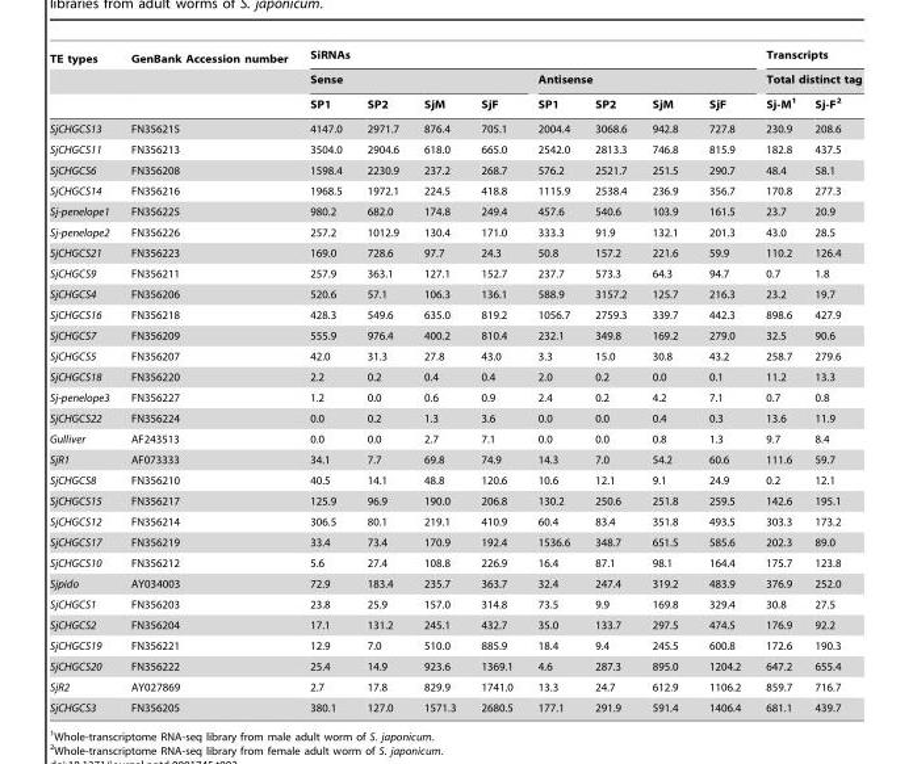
<table><thead><tr><td rowspan="3">TE types</td><td rowspan="3">GenBank Accession number</td><td colspan="8">SiRNAs</td><td rowspan="2" colspan="2">Transcripts Total distinct tag</td></tr><tr><td colspan="4">Sense</td><td colspan="4">Antisense</td></tr><tr><td>SP1</td><td>SP2</td><td>SjM</td><td>SjF</td><td>SP1</td><td>SP2</td><td>SjM</td><td>SjF</td><td>Sj-M<sup>1</sup></td><td>Sj-F<sup>2</sup></td></tr></thead><tbody><tr><td>SjCHGCS13</td><td>FN356215</td><td>4147.0</td><td>2971.7</td><td>876.4</td><td>705.1</td><td>2004.4</td><td>3068.6</td><td>942.8</td><td>727.8</td><td>230.9</td><td>208.6</td></tr><tr><td>SjCHGCS11</td><td>FN356213</td><td>3504.0</td><td>2904.6</td><td>618.0</td><td>665.0</td><td>2542.0</td><td>2813.3</td><td>746.8</td><td>815.9</td><td>182.8</td><td>437.5</td></tr><tr><td>SjCHGCS6</td><td>FN356208</td><td>1598.4</td><td>2230.9</td><td>237.2</td><td>268.7</td><td>576.2</td><td>2521.7</td><td>251.5</td><td>290.7</td><td>48.4</td><td>58.1</td></tr><tr><td>SjCHGCS14</td><td>FN356216</td><td>1968.5</td><td>1972.1</td><td>224.5</td><td>418.8</td><td>1115.9</td><td>2538.4</td><td>236.9</td><td>356.7</td><td>170.8</td><td>277.3</td></tr><tr><td>Sj-penelope1</td><td>FN356225</td><td>980.2</td><td>682.0</td><td>174.8</td><td>249.4</td><td>457.6</td><td>540.6</td><td>103.9</td><td>161.5</td><td>23.7</td><td>20.9</td></tr><tr><td>Sj-penelope2</td><td>FN356226</td><td>257.2</td><td>1012.9</td><td>130.4</td><td>171.0</td><td>333.3</td><td>91.9</td><td>132.1</td><td>201.3</td><td>43.0</td><td>28.5</td></tr><tr><td>SjCHGCS21</td><td>FN356223</td><td>169.0</td><td>728.6</td><td>97.7</td><td>24.3</td><td>50.8</td><td>157.2</td><td>221.6</td><td>59.9</td><td>110.2</td><td>126.4</td></tr><tr><td>SjCHGCS9</td><td>FN356211</td><td>257.9</td><td>363.1</td><td>127.1</td><td>152.7</td><td>237.7</td><td>573.3</td><td>64.3</td><td>94.7</td><td>0.7</td><td>1.8</td></tr><tr><td>SjCHGCS4</td><td>FN356206</td><td>520.6</td><td>57.1</td><td>106.3</td><td>136.1</td><td>588.9</td><td>3157.2</td><td>125.7</td><td>216.3</td><td>23.2</td><td>19.7</td></tr><tr><td>SjCHGCS16</td><td>FN356218</td><td>428.3</td><td>549.6</td><td>635.0</td><td>819.2</td><td>1056.7</td><td>2759.3</td><td>339.7</td><td>442.3</td><td>898.6</td><td>427.9</td></tr><tr><td>SjCHGCS7</td><td>FN356209</td><td>555.9</td><td>976.4</td><td>400.2</td><td>810.4</td><td>232.1</td><td>349.8</td><td>169.2</td><td>279.0</td><td>32.5</td><td>90.6</td></tr><tr><td>SjCHGCS5</td><td>FN356207</td><td>42.0</td><td>31.3</td><td>27.8</td><td>43.0</td><td>3.3</td><td>15.0</td><td>30.8</td><td>43.2</td><td>258.7</td><td>279.6</td></tr><tr><td>SjCHGCS18</td><td>FN356220</td><td>2.2</td><td>0.2</td><td>0.4</td><td>0.4</td><td>2.0</td><td>0.2</td><td>0.0</td><td>0.1</td><td>11.2</td><td>13.3</td></tr><tr><td>Sj-penelope3</td><td>FN356227</td><td>1.2</td><td>0.0</td><td>0.6</td><td>0.9</td><td>2.4</td><td>0.2</td><td>4.2</td><td>7.1</td><td>0.7</td><td>0.8</td></tr><tr><td>SjCHGCS22</td><td>FN356224</td><td>0.0</td><td>0.2</td><td>1.3</td><td>3.6</td><td>0.0</td><td>0.0</td><td>0.4</td><td>0.3</td><td>13.6</td><td>11.9</td></tr><tr><td>Gulliver</td><td>AF243513</td><td>0.0</td><td>0.0</td><td>2.7</td><td>7.1</td><td>0.0</td><td>0.0</td><td>0.8</td><td>1.3</td><td>9.7</td><td>8.4</td></tr><tr><td>SjR1</td><td>AF073333</td><td>34.1</td><td>7.7</td><td>69.8</td><td>74.9</td><td>14.3</td><td>7.0</td><td>54.2</td><td>60.6</td><td>111.6</td><td>59.7</td></tr><tr><td>SjCHGCS8</td><td>FN356210</td><td>40.5</td><td>14.1</td><td>48.8</td><td>120.6</td><td>10.6</td><td>12.1</td><td>9.1</td><td>24.9</td><td>0.2</td><td>12.1</td></tr><tr><td>SjCHGCS15</td><td>FN356217</td><td>125.9</td><td>96.9</td><td>190.0</td><td>206.8</td><td>130.2</td><td>250.6</td><td>251.8</td><td>259.5</td><td>142.6</td><td>195.1</td></tr><tr><td>SjCHGCS12</td><td>FN356214</td><td>306.5</td><td>80.1</td><td>219.1</td><td>410.9</td><td>60.4</td><td>83.4</td><td>351.8</td><td>493.5</td><td>303.3</td><td>173.2</td></tr><tr><td>SjCHGCS17</td><td>FN356219</td><td>33.4</td><td>73.4</td><td>170.9</td><td>192.4</td><td>1536.6</td><td>348.7</td><td>651.5</td><td>585.6</td><td>202.3</td><td>89.0</td></tr><tr><td>SjCHGCS10</td><td>FN356212</td><td>5.6</td><td>27.4</td><td>108.8</td><td>226.9</td><td>16.4</td><td>87.1</td><td>98.1</td><td>164.4</td><td>175.7</td><td>123.8</td></tr><tr><td>Sjpido</td><td>AY034003</td><td>72.9</td><td>183.4</td><td>235.7</td><td>363.7</td><td>32.4</td><td>247.4</td><td>319.2</td><td>483.9</td><td>376.9</td><td>252.0</td></tr><tr><td>SjCHGCS1</td><td>FN356203</td><td>23.8</td><td>25.9</td><td>157.0</td><td>314.8</td><td>73.5</td><td>9.9</td><td>169.8</td><td>329.4</td><td>30.8</td><td>27.5</td></tr><tr><td>SjCHGCS2</td><td>FN356204</td><td>17.1</td><td>131.2</td><td>245.1</td><td>432.7</td><td>35.0</td><td>133.7</td><td>297.5</td><td>474.5</td><td>176.9</td><td>92.2</td></tr><tr><td>SjCHGCS19</td><td>FN356221</td><td>12.9</td><td>7.0</td><td>510.0</td><td>885.9</td><td>18.4</td><td>9.4</td><td>245.5</td><td>600.8</td><td>172.6</td><td>190.3</td></tr><tr><td>SjCHGCS20</td><td>FN356222</td><td>25.4</td><td>14.9</td><td>923.6</td><td>1369.1</td><td>4.6</td><td>287.3</td><td>895.0</td><td>1204.2</td><td>647.2</td><td>655.4</td></tr><tr><td>SjR2</td><td>AY027869</td><td>2.7</td><td>17.8</td><td>829.9</td><td>1741.0</td><td>13.3</td><td>24.7</td><td>612.9</td><td>1106.2</td><td>859.7</td><td>716.7</td></tr><tr><td>SjCHGCS3</td><td>FN356205</td><td>380.1</td><td>127.0</td><td>1571.3</td><td>2680.5</td><td>177.1</td><td>291.9</td><td>591.4</td><td>1406.4</td><td>681.1</td><td>439.7</td></tr></tbody></table>